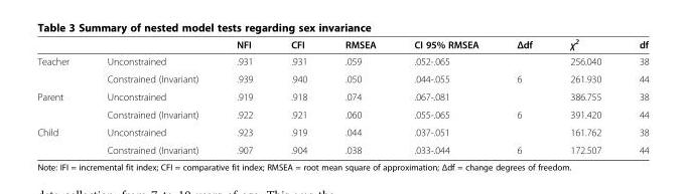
<table><thead><tr><td></td><td></td><td>NFI</td><td>CFI</td><td>RMSEA</td><td>CI 95% RMSEA</td><td>Δdf</td><td>χ<sup>2</sup></td><td>df</td></tr></thead><tbody><tr><td rowspan="2">Teacher</td><td>Unconstrained</td><td>.931</td><td>.931</td><td>.059</td><td>.052-.065</td><td></td><td>256.040</td><td>38</td></tr><tr><td>Constrained (Invariant)</td><td>.939</td><td>.940</td><td>.050</td><td>.044-.055</td><td>6</td><td>261.930</td><td>44</td></tr><tr><td rowspan="2">Parent</td><td>Unconstrained</td><td>.919</td><td>.918</td><td>.074</td><td>.067-.081</td><td></td><td>386.755</td><td>38</td></tr><tr><td>Constrained (Invariant)</td><td>.922</td><td>.921</td><td>.060</td><td>.055-.065</td><td>6</td><td>391.420</td><td>44</td></tr><tr><td rowspan="2">Child</td><td>Unconstrained</td><td>.923</td><td>.919</td><td>.044</td><td>.037-.051</td><td></td><td>161.762</td><td>38</td></tr><tr><td>Constrained (Invariant)</td><td>.907</td><td>.904</td><td>.038</td><td>.033-.044</td><td>6</td><td>172.507</td><td>44</td></tr></tbody></table>